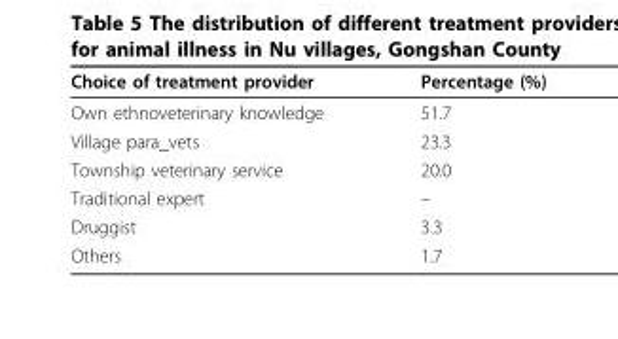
<table><thead><tr><td>Choice of treatment provider</td><td>Percentage (%)</td></tr></thead><tbody><tr><td>Own ethnoveterinary knowledge</td><td>51.7</td></tr><tr><td>Village para_vets</td><td>23.3</td></tr><tr><td>Township veterinary service</td><td>20.0</td></tr><tr><td>Traditional expert</td><td>–</td></tr><tr><td>Druggist</td><td>3.3</td></tr><tr><td>Others</td><td>1.7</td></tr></tbody></table>